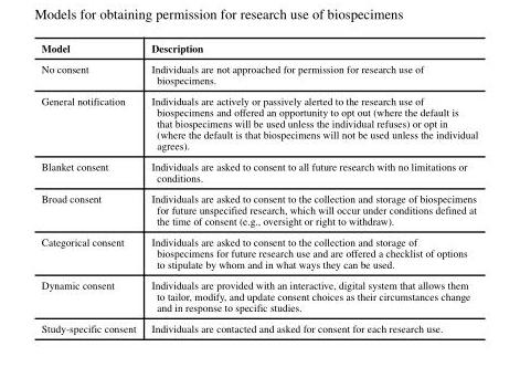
<table><thead><tr><td>Model</td><td>Description</td></tr></thead><tbody><tr><td>No consent</td><td>Individuals are not approached for permission for research use of biospecimens.</td></tr><tr><td>General notification</td><td>Individuals are actively or passively alerted to the research use of biospecimens and offered an opportunity to opt out (where the default is that biospecimens will be used unless the individual refuses) or opt in (where the default is that biospecimens will not be used unless the individual agrees).</td></tr><tr><td>Blanket consent</td><td>Individuals are asked to consent to all future research with no limitations or conditions.</td></tr><tr><td>Broad consent</td><td>Individuals are asked to consent to the collection and storage of biospecimens for future unspecified research, which will occur under conditions defined at the time of consent (e.g., oversight or right to withdraw).</td></tr><tr><td>Categorical consent</td><td>Individuals are asked to consent to the collection and storage of biospecimens for future research use and are offered a checklist of options to stipulate by whom and in what ways they can be used.</td></tr><tr><td>Dynamic consent</td><td>Individuals are provided with an interactive, digital system that allows them to tailor, modify, and update consent choices as their circumstances change and in response to specific studies.</td></tr><tr><td>Study-specific consent</td><td>Individuals are contacted and asked for consent for each research use.</td></tr></tbody></table>